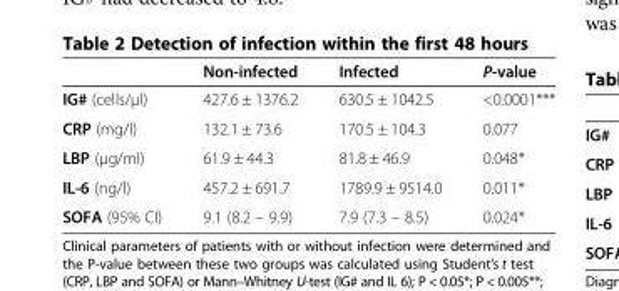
<table><thead><tr><td></td><td>Non-infected</td><td>Infected</td><td>P-value</td></tr></thead><tbody><tr><td>IG# (cells/μl)</td><td>427.6 ± 1376.2</td><td>630.5 ± 1042.5</td><td>&lt;0.0001***</td></tr><tr><td>CRP (mg/l)</td><td>132.1 ± 73.6</td><td>170.5 ± 104.3</td><td>0.077</td></tr><tr><td>LBP (μg/ml)</td><td>61.9 ± 44.3</td><td>81.8 ± 46.9</td><td>0.048*</td></tr><tr><td>IL-6 (ng/l)</td><td>457.2 ± 691.7</td><td>1789.9 ± 9514.0</td><td>0.011*</td></tr><tr><td>SOFA (95% CI)</td><td>9.1 (8.2 – 9.9)</td><td>7.9 (7.3 – 8.5)</td><td>0.024*</td></tr></tbody></table>